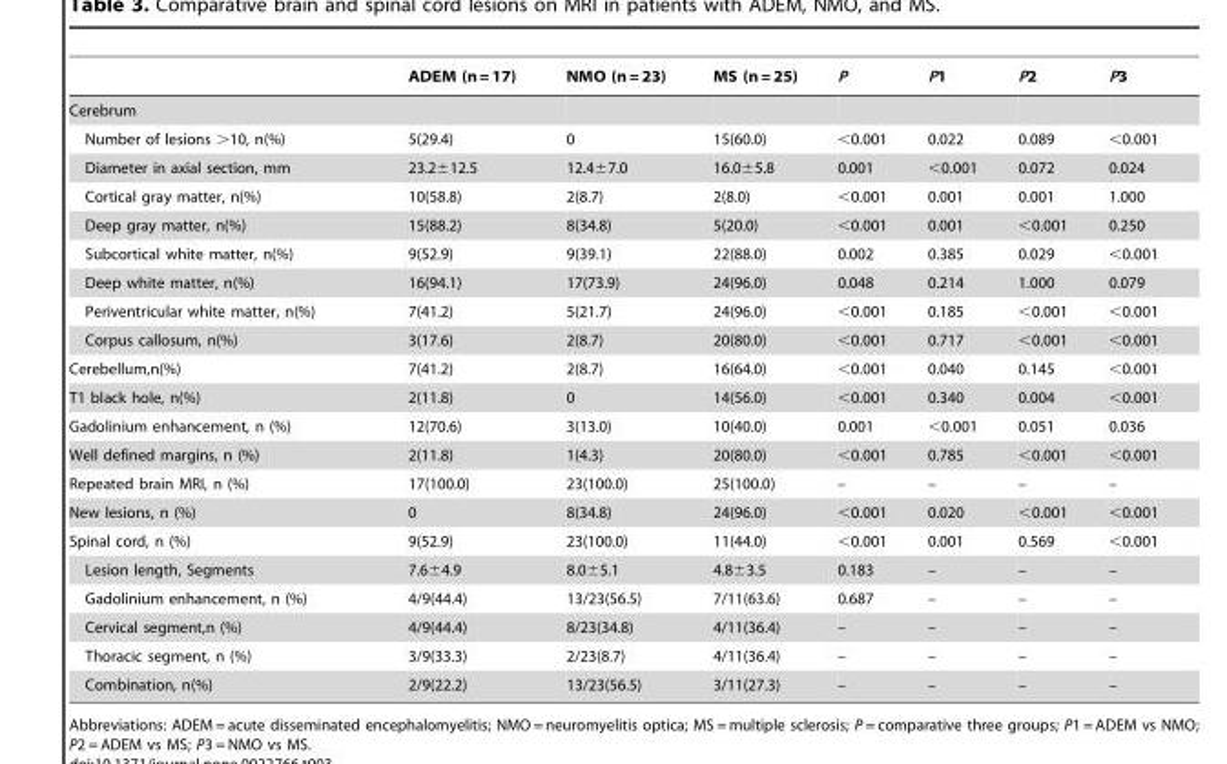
<table><thead><tr><td></td><td>ADEM (n = 17)</td><td>NMO (n = 23)</td><td>MS (n = 25)</td><td>P</td><td>P1</td><td>P2</td><td>P3</td></tr></thead><tbody><tr><td colspan="8">Cerebrum</td></tr><tr><td>Number of lesions &gt;10, n(%)</td><td>5(29.4)</td><td>0</td><td>15(60.0)</td><td>&lt;0.001</td><td>0.022</td><td>0.089</td><td>&lt;0.001</td></tr><tr><td>Diameter in axial section, mm</td><td>23.2±12.5</td><td>12.4±7.0</td><td>16.0±5.8</td><td>0.001</td><td>&lt;0.001</td><td>0.072</td><td>0.024</td></tr><tr><td>Cortical gray matter, n(%)</td><td>10(58.8)</td><td>2(8.7)</td><td>2(8.0)</td><td>&lt;0.001</td><td>0.001</td><td>0.001</td><td>1.000</td></tr><tr><td>Deep gray matter, n(%)</td><td>15(88.2)</td><td>8(34.8)</td><td>5(20.0)</td><td>&lt;0.001</td><td>0.001</td><td>&lt;0.001</td><td>0.250</td></tr><tr><td>Subcortical white matter, n(%)</td><td>9(52.9)</td><td>9(39.1)</td><td>22(88.0)</td><td>0.002</td><td>0.385</td><td>0.029</td><td>&lt;0.001</td></tr><tr><td>Deep white matter, n(%)</td><td>16(94.1)</td><td>17(73.9)</td><td>24(96.0)</td><td>0.048</td><td>0.214</td><td>1.000</td><td>0.079</td></tr><tr><td>Periventricular white matter, n(%)</td><td>7(41.2)</td><td>5(21.7)</td><td>24(96.0)</td><td>&lt;0.001</td><td>0.185</td><td>&lt;0.001</td><td>&lt;0.001</td></tr><tr><td>Corpus callosum, n(%)</td><td>3(17.6)</td><td>2(8.7)</td><td>20(80.0)</td><td>&lt;0.001</td><td>0.717</td><td>&lt;0.001</td><td>&lt;0.001</td></tr><tr><td>Cerebellum,n(%)</td><td>7(41.2)</td><td>2(8.7)</td><td>16(64.0)</td><td>&lt;0.001</td><td>0.040</td><td>0.145</td><td>&lt;0.001</td></tr><tr><td>T1 black hole, n(%)</td><td>2(11.8)</td><td>0</td><td>14(56.0)</td><td>&lt;0.001</td><td>0.340</td><td>0.004</td><td>&lt;0.001</td></tr><tr><td>Gadolinium enhancement, n (%)</td><td>12(70.6)</td><td>3(13.0)</td><td>10(40.0)</td><td>0.001</td><td>&lt;0.001</td><td>0.051</td><td>0.036</td></tr><tr><td>Well defined margins, n (%)</td><td>2(11.8)</td><td>1(4.3)</td><td>20(80.0)</td><td>&lt;0.001</td><td>0.785</td><td>&lt;0.001</td><td>&lt;0.001</td></tr><tr><td>Repeated brain MRI, n (%)</td><td>17(100.0)</td><td>23(100.0)</td><td>25(100.0)</td><td>–</td><td>–</td><td>–</td><td>–</td></tr><tr><td>New lesions, n (%)</td><td>0</td><td>8(34.8)</td><td>24(96.0)</td><td>&lt;0.001</td><td>0.020</td><td>&lt;0.001</td><td>&lt;0.001</td></tr><tr><td>Spinal cord, n (%)</td><td>9(52.9)</td><td>23(100.0)</td><td>11(44.0)</td><td>&lt;0.001</td><td>0.001</td><td>0.569</td><td>&lt;0.001</td></tr><tr><td>Lesion length, Segments</td><td>7.6±4.9</td><td>8.0±5.1</td><td>4.8±3.5</td><td>0.183</td><td>–</td><td>–</td><td>–</td></tr><tr><td>Gadolinium enhancement, n (%)</td><td>4/9(44.4)</td><td>13/23(56.5)</td><td>7/11(63.6)</td><td>0.687</td><td>–</td><td>–</td><td>–</td></tr><tr><td>Cervical segment,n (%)</td><td>4/9(44.4)</td><td>8/23(34.8)</td><td>4/11(36.4)</td><td>–</td><td>–</td><td>–</td><td>–</td></tr><tr><td>Thoracic segment, n (%)</td><td>3/9(33.3)</td><td>2/23(8.7)</td><td>4/11(36.4)</td><td>–</td><td>–</td><td>–</td><td>–</td></tr><tr><td>Combination, n(%)</td><td>2/9(22.2)</td><td>13/23(56.5)</td><td>3/11(27.3)</td><td>–</td><td>–</td><td>–</td><td>–</td></tr></tbody></table>